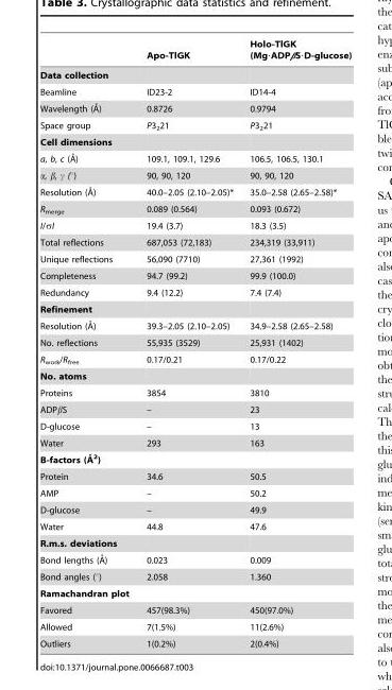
<table><thead><tr><td></td><td>Apo-TlGK</td><td>Holo-TlGK (Mg·ADPβS·D-glucose)</td></tr></thead><tbody><tr><td colspan="3">Data collection</td></tr><tr><td>Beamline</td><td>ID23-2</td><td>ID14-4</td></tr><tr><td>Wavelength (A˚)</td><td>0.8726</td><td>0.9794</td></tr><tr><td>Space group</td><td>P3<sub>2</sub>21</td><td>P3<sub>2</sub>21</td></tr><tr><td colspan="3">Cell dimensions</td></tr><tr><td>a, b, c (A˚)</td><td>109.1, 109.1, 129.6</td><td>106.5, 106.5, 130.1</td></tr><tr><td>α, β, γ (°)</td><td>90, 90, 120</td><td>90, 90, 120</td></tr><tr><td>Resolution (A˚)</td><td>40.0–2.05 (2.10–2.05)*</td><td>35.0–2.58 (2.65–2.58)*</td></tr><tr><td>R<sub>merge</sub></td><td>0.089 (0.564)</td><td>0.093 (0.672)</td></tr><tr><td>I/σI</td><td>19.4 (3.7)</td><td>18.3 (3.5)</td></tr><tr><td>Total reflections</td><td>687,053 (72,183)</td><td>234,319 (33,911)</td></tr><tr><td>Unique reflections</td><td>56,090 (7710)</td><td>27,361 (1992)</td></tr><tr><td>Completeness</td><td>94.7 (99.2)</td><td>99.9 (100.0)</td></tr><tr><td>Redundancy</td><td>9.4 (12.2)</td><td>7.4 (7.4)</td></tr><tr><td colspan="3">Refinement</td></tr><tr><td>Resolution (A˚)</td><td>39.3–2.05 (2.10–2.05)</td><td>34.9–2.58 (2.65–2.58)</td></tr><tr><td>No. reflections</td><td>55,935 (3529)</td><td>25,931 (1402)</td></tr><tr><td>R<sub>work</sub>/R<sub>free</sub></td><td>0.17/0.21</td><td>0.17/0.22</td></tr><tr><td colspan="3">No. atoms</td></tr><tr><td>Proteins</td><td>3854</td><td>3810</td></tr><tr><td>ADPβS</td><td>–</td><td>23</td></tr><tr><td>D-glucose</td><td>–</td><td>13</td></tr><tr><td>Water</td><td>293</td><td>163</td></tr><tr><td colspan="3">B-factors (A˚ 2)</td></tr><tr><td>Protein</td><td>34.6</td><td>50.5</td></tr><tr><td>AMP</td><td>–</td><td>50.2</td></tr><tr><td>D-glucose</td><td>–</td><td>49.9</td></tr><tr><td>Water</td><td>44.8</td><td>47.6</td></tr><tr><td colspan="3">R.m.s. deviations</td></tr><tr><td>Bond lengths (A˚)</td><td>0.023</td><td>0.009</td></tr><tr><td>Bond angles (°)</td><td>2.058</td><td>1.360</td></tr><tr><td colspan="3">Ramachandran plot</td></tr><tr><td>Favored</td><td>457(98.3%)</td><td>450(97.0%)</td></tr><tr><td>Allowed</td><td>7(1.5%)</td><td>11(2.6%)</td></tr><tr><td>Outliers</td><td>1(0.2%)</td><td>2(0.4%)</td></tr></tbody></table>